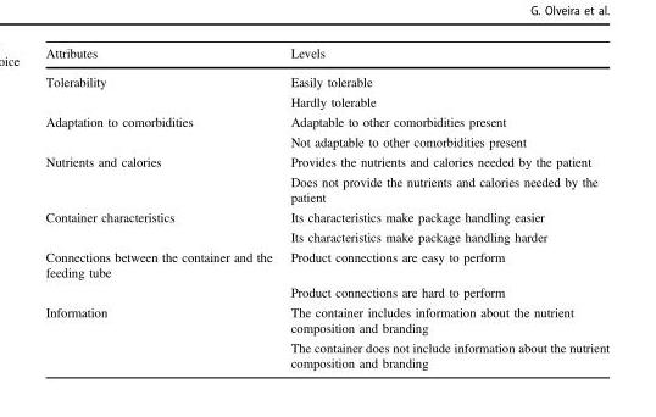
<table><thead><tr><td>Attributes</td><td>Levels</td></tr></thead><tbody><tr><td rowspan="2">Tolerability</td><td>Easily tolerable</td></tr><tr><td>Hardly tolerable</td></tr><tr><td rowspan="2">Adaptation to comorbidities</td><td>Adaptable to other comorbidities present</td></tr><tr><td>Not adaptable to other comorbidities present</td></tr><tr><td rowspan="2">Nutrients and calories</td><td>Provides the nutrients and calories needed by the patient</td></tr><tr><td>Does not provide the nutrients and calories needed by the patient</td></tr><tr><td rowspan="2">Container characteristics</td><td>Its characteristics make package handling easier</td></tr><tr><td>Its characteristics make package handling harder</td></tr><tr><td rowspan="2">Connections between the container and the feeding tube</td><td>Product connections are easy to perform</td></tr><tr><td>Product connections are hard to perform</td></tr><tr><td rowspan="2">Information</td><td>The container includes information about the nutrient composition and branding</td></tr><tr><td>The container does not include information about the nutrient composition and branding</td></tr></tbody></table>